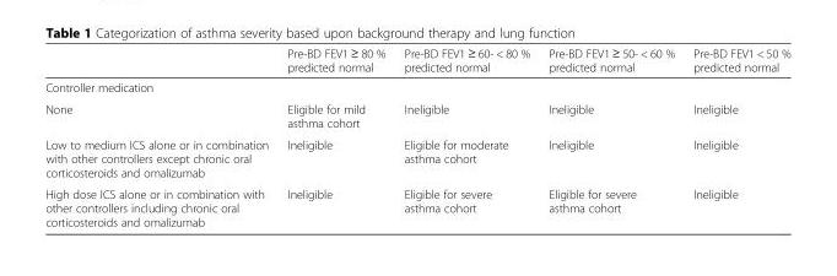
<table><thead><tr><td></td><td>Pre-BD FEV1 ≥ 80 % predicted normal</td><td>Pre-BD FEV1 ≥ 60- &lt; 80 % predicted normal</td><td>Pre-BD FEV1 ≥ 50- &lt; 60 % predicted normal</td><td>Pre-BD FEV1 &lt; 50 % predicted normal</td></tr></thead><tbody><tr><td colspan="5">Controller medication</td></tr><tr><td>None</td><td>Eligible for mild asthma cohort</td><td>Ineligible</td><td>Ineligible</td><td>Ineligible</td></tr><tr><td>Low to medium ICS alone or in combination with other controllers except chronic oral corticosteroids and omalizumab</td><td>Ineligible</td><td>Eligible for moderate asthma cohort</td><td>Ineligible</td><td>Ineligible</td></tr><tr><td>High dose ICS alone or in combination with other controllers including chronic oral corticosteroids and omalizumab</td><td>Ineligible</td><td>Eligible for severe asthma cohort</td><td>Eligible for severe asthma cohort</td><td>Ineligible</td></tr></tbody></table>